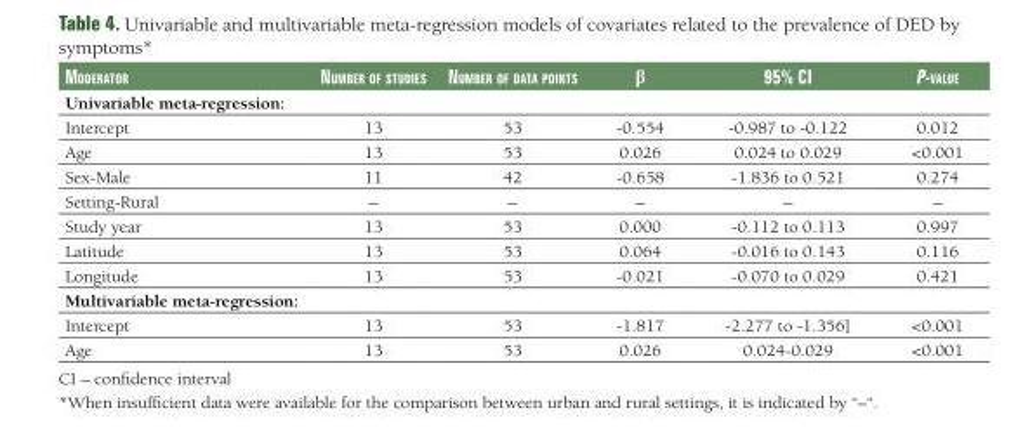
<table><thead><tr><td>moderator</td><td>number of studies</td><td>number of data points</td><td>β</td><td>95% Ci</td><td>p-value</td></tr></thead><tbody><tr><td colspan="6">Univariable meta-regression:</td></tr><tr><td>Intercept</td><td>13</td><td>53</td><td>-0.554</td><td>-0.987 to -0.122</td><td>0.012</td></tr><tr><td>Age</td><td>13</td><td>53</td><td>0.026</td><td>0.024 to 0.029</td><td>&lt;0.001</td></tr><tr><td>Sex-Male</td><td>11</td><td>42</td><td>-0.658</td><td>-1.836 to 0.521</td><td>0.274</td></tr><tr><td>Setting-Rural</td><td>–</td><td>–</td><td>–</td><td>–</td><td>–</td></tr><tr><td>Study year</td><td>13</td><td>53</td><td>0.000</td><td>-0.112 to 0.113</td><td>0.997</td></tr><tr><td>Latitude</td><td>13</td><td>53</td><td>0.064</td><td>-0.016 to 0.143</td><td>0.116</td></tr><tr><td>Longitude</td><td>13</td><td>53</td><td>-0.021</td><td>-0.070 to 0.029</td><td>0.421</td></tr><tr><td colspan="6">Multivariable meta-regression:</td></tr><tr><td>Intercept</td><td>13</td><td>53</td><td>-1.817</td><td>-2.277 to -1.356]</td><td>&lt;0.001</td></tr><tr><td>Age</td><td>13</td><td>53</td><td>0.026</td><td>0.024-0.029</td><td>&lt;0.001</td></tr></tbody></table>